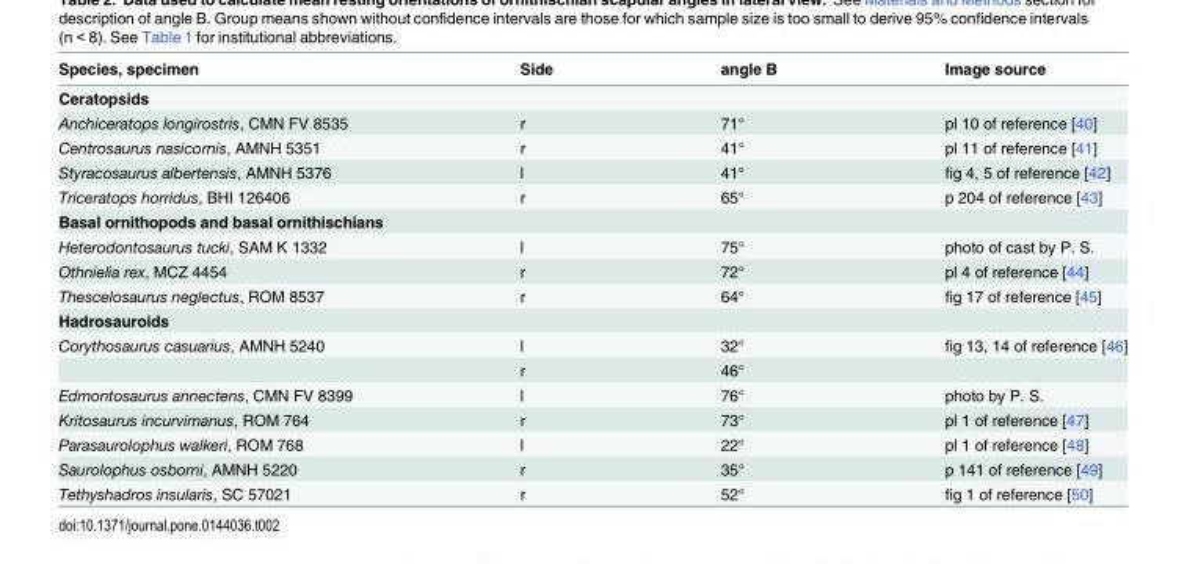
<table><thead><tr><td>Species, specimen</td><td>Side</td><td>angle B</td><td>Image source</td></tr></thead><tbody><tr><td colspan="4">Ceratopsids</td></tr><tr><td>Anchiceratops longirostris, CMN FV 8535</td><td>r</td><td>71°</td><td>pl 10 of reference [40]</td></tr><tr><td>Centrosaurus nasicornis, AMNH 5351</td><td>r</td><td>41°</td><td>pl 11 of reference [41]</td></tr><tr><td>Styracosaurus albertensis, AMNH 5376</td><td>l</td><td>41°</td><td>fig 4, 5 of reference [42]</td></tr><tr><td>Triceratops horridus, BHI 126406</td><td>r</td><td>65°</td><td>p 204 of reference [43]</td></tr><tr><td colspan="4">Basal ornithopods and basal ornithischians</td></tr><tr><td>Heterodontosaurus tucki, SAM K 1332</td><td>l</td><td>75°</td><td>photo of cast by P. S.</td></tr><tr><td>Othnielia rex, MCZ 4454</td><td>r</td><td>72°</td><td>pl 4 of reference [44]</td></tr><tr><td>Thescelosaurus neglectus, ROM 8537</td><td>r</td><td>64°</td><td>fig 17 of reference [45]</td></tr><tr><td colspan="4">Hadrosauroids</td></tr><tr><td rowspan="2">Corythosaurus casuarius, AMNH 5240</td><td>l</td><td>32°</td><td>fig 13, 14 of reference [46]</td></tr><tr><td>r</td><td>46°</td><td></td></tr><tr><td>Edmontosaurus annectens, CMN FV 8399</td><td>l</td><td>76°</td><td>photo by P. S.</td></tr><tr><td>Kritosaurus incurvimanus, ROM 764</td><td>r</td><td>73°</td><td>pl 1 of reference [47]</td></tr><tr><td>Parasaurolophus walkeri, ROM 768</td><td>l</td><td>22°</td><td>pl 1 of reference [48]</td></tr><tr><td>Saurolophus osborni, AMNH 5220</td><td>r</td><td>35°</td><td>p 141 of reference [49]</td></tr><tr><td>Tethyshadros insularis, SC 57021</td><td>r</td><td>52°</td><td>fig 1 of reference [50]</td></tr></tbody></table>